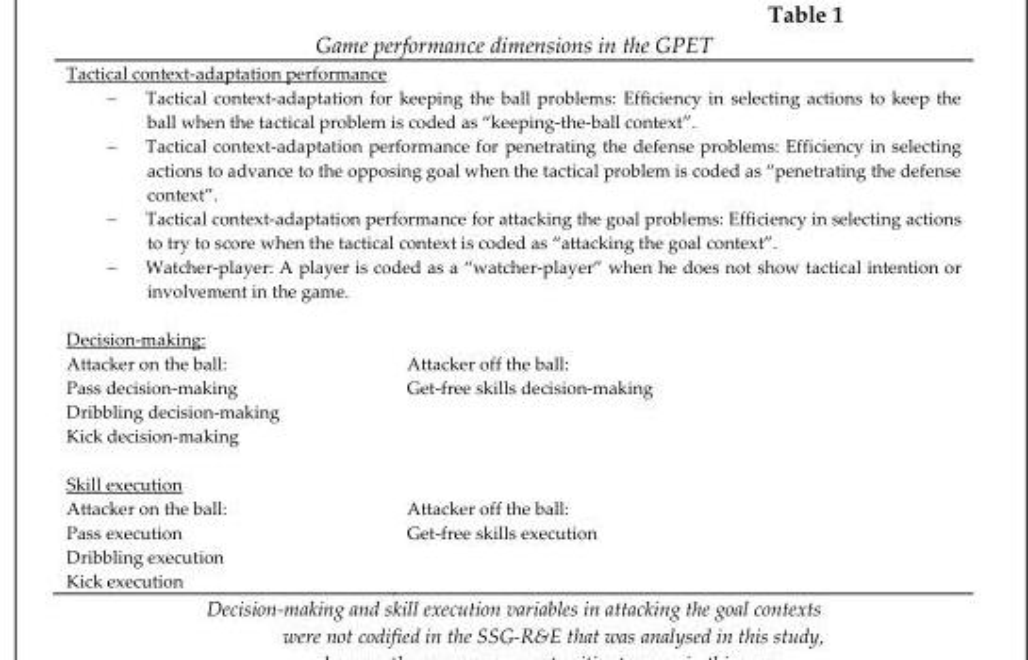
<table><tbody><tr><td colspan="2">Tactical context-adaptation performance – Tactical context-adaptation for keeping the ball problems: Efficiency in selecting actions to keep the ball when the tactical problem is coded as “keeping-the-ball context”. – Tactical context-adaptation performance for penetrating the defense problems: Efficiency in selecting actions to advance to the opposing goal when the tactical problem is coded as “penetrating the defense context”. – Tactical context-adaptation performance for attacking the goal problems: Efficiency in selecting actions to try to score when the tactical context is coded as “attacking the goal context”. – Watcher-player: A player is coded as a “watcher-player” when he does not show tactical intention or involvement in the game.</td></tr><tr><td colspan="2">Decision-making:</td></tr><tr><td>Attacker on the ball: Pass decision-making Dribbling decision-making Kick decision-making</td><td>Attacker off the ball: Get-free skills decision-making</td></tr><tr><td colspan="2">Skill execution</td></tr><tr><td>Attacker on the ball: Pass execution Dribbling execution Kick execution</td><td>Attacker off the ball: Get-free skills execution</td></tr></tbody></table>